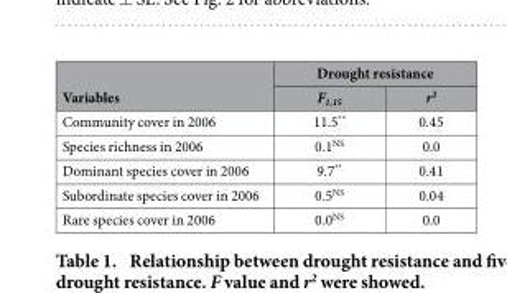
<table><thead><tr><td rowspan="2">Variables</td><td colspan="2">Drought resistance</td></tr><tr><td>F<sub>1,15</sub></td><td>r<sup>2</sup></td></tr></thead><tbody><tr><td>Community cover in 2006</td><td>11.5**</td><td>0.45</td></tr><tr><td>Species richness in 2006</td><td>0.1<sup>NS</sup></td><td>0.0</td></tr><tr><td>Dominant species cover in 2006</td><td>9.7**</td><td>0.41</td></tr><tr><td>Subordinate species cover in 2006</td><td>0.5<sup>NS</sup></td><td>0.04</td></tr><tr><td>Rare species cover in 2006</td><td>0.0<sup>NS</sup></td><td>0.0</td></tr></tbody></table>